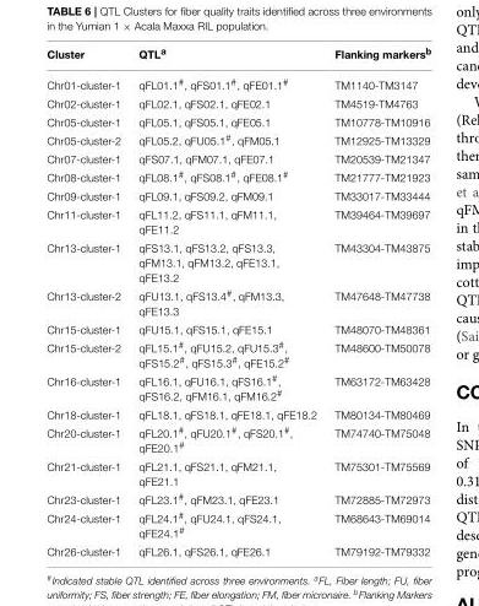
<table><thead><tr><td>Cluster</td><td>QTL<sup>a</sup></td><td>Flanking markers<sup>b</sup></td></tr></thead><tbody><tr><td>Chr01-cluster-1</td><td>qFL01.1<sup>#</sup>, qFS01.1<sup>#</sup>, qFE01.1<sup>#</sup></td><td>TM1140-TM3147</td></tr><tr><td>Chr02-cluster-1</td><td>qFL02.1, qFS02.1, qFE02.1</td><td>TM4519-TM4763</td></tr><tr><td>Chr05-cluster-1</td><td>qFL05.1, qFS05.1, qFE05.1</td><td>TM10778-TM10916</td></tr><tr><td>Chr05-cluster-2</td><td>qFL05.2, qFU05.1<sup>#</sup>, qFM05.1</td><td>TM12925-TM13329</td></tr><tr><td>Chr07-cluster-1</td><td>qFS07.1, qFM07.1, qFE07.1</td><td>TM20539-TM21347</td></tr><tr><td>Chr08-cluster-1</td><td>qFL08.1<sup>#</sup>, qFS08.1<sup>#</sup>, qFE08.1<sup>#</sup></td><td>TM21777-TM21923</td></tr><tr><td>Chr09-cluster-1</td><td>qFL09.1, qFS09.2, qFM09.1</td><td>TM33017-TM33444</td></tr><tr><td>Chr11-cluster-1</td><td>qFL11.2, qFS11.1, qFM11.1, qFE11.2</td><td>TM39464-TM39697</td></tr><tr><td>Chr13-cluster-1</td><td>qFS13.1, qFS13.2, qFS13.3, qFM13.1, qFM13.2, qFE13.1, qFE13.2</td><td>TM43304-TM43875</td></tr><tr><td>Chr13-cluster-2</td><td>qFU13.1, qFS13.4<sup>#</sup>, qFM13.3, qFE13.3</td><td>TM47648-TM47738</td></tr><tr><td>Chr15-cluster-1</td><td>qFU15.1, qFS15.1, qFE15.1</td><td>TM48070-TM48361</td></tr><tr><td>Chr15-cluster-2</td><td>qFL15.1<sup>#</sup>, qFU15.2, qFU15.3<sup>#</sup>, qFS15.2<sup>#</sup>, qFS15.3<sup>#</sup>, qFE15.2<sup>#</sup></td><td>TM48600-TM50078</td></tr><tr><td>Chr16-cluster-1</td><td>qFL16.1, qFU16.1, qFS16.1<sup>#</sup>, qFS16.2, qFM16.1, qFM16.2<sup>#</sup></td><td>TM63172-TM63428</td></tr><tr><td>Chr18-cluster-1</td><td>qFL18.1, qFS18.1, qFE18.1, qFE18.2</td><td>TM80134-TM80469</td></tr><tr><td>Chr20-cluster-1</td><td>qFL20.1<sup>#</sup>, qFU20.1<sup>#</sup>, qFS20.1<sup>#</sup>, qFE20.1<sup>#</sup></td><td>TM74740-TM75048</td></tr><tr><td>Chr21-cluster-1</td><td>qFL21.1, qFS21.1, qFM21.1, qFE21.1</td><td>TM75301-TM75569</td></tr><tr><td>Chr23-cluster-1</td><td>qFL23.1<sup>#</sup>, qFM23.1, qFE23.1</td><td>TM72885-TM72973</td></tr><tr><td>Chr24-cluster-1</td><td>qFL24.1<sup>#</sup>, qFU24.1, qFS24.1, qFE24.1<sup>#</sup></td><td>TM68643-TM69014</td></tr><tr><td>Chr26-cluster-1</td><td>qFL26.1, qFS26.1, qFE26.1</td><td>TM79192-TM79332</td></tr></tbody></table>